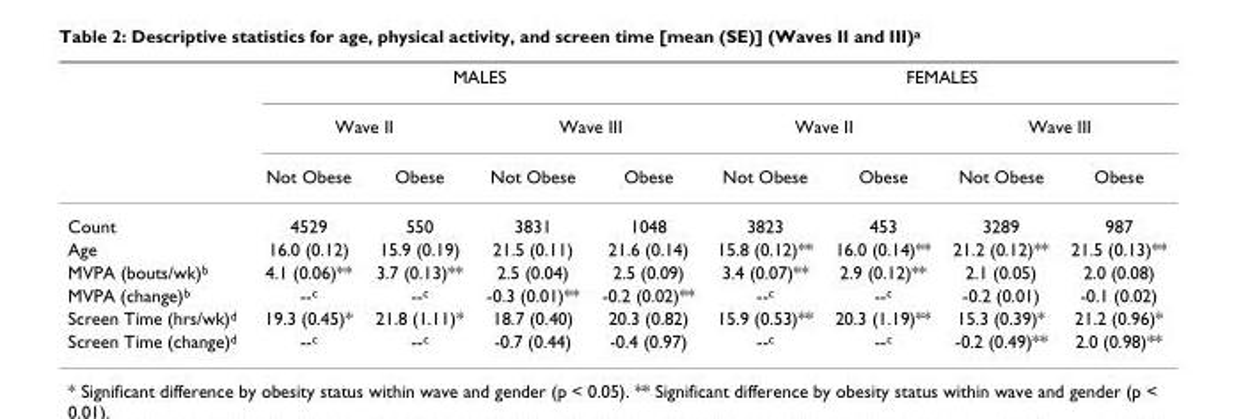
<table><thead><tr><td rowspan="3"></td><td colspan="4">MALES</td><td colspan="4">FEMALES</td></tr><tr><td colspan="2">Wave II</td><td colspan="2">Wave III</td><td colspan="2">Wave II</td><td colspan="2">Wave III</td></tr><tr><td>Not Obese</td><td>Obese</td><td>Not Obese</td><td>Obese</td><td>Not Obese</td><td>Obese</td><td>Not Obese</td><td>Obese</td></tr></thead><tbody><tr><td>Count</td><td>4529</td><td>550</td><td>3831</td><td>1048</td><td>3823</td><td>453</td><td>3289</td><td>987</td></tr><tr><td>Age</td><td>16.0 (0.12)</td><td>15.9 (0.19)</td><td>21.5 (0.11)</td><td>21.6 (0.14)</td><td>15.8 (0.12)**</td><td>16.0 (0.14)**</td><td>21.2 (0.12)**</td><td>21.5 (0.13)**</td></tr><tr><td>MVPA (bouts/wk)<sup>b</sup></td><td>4.1 (0.06)**</td><td>3.7 (0.13)**</td><td>2.5 (0.04)</td><td>2.5 (0.09)</td><td>3.4 (0.07)**</td><td>2.9 (0.12)**</td><td>2.1 (0.05)</td><td>2.0 (0.08)</td></tr><tr><td>MVPA (change)<sup>b</sup></td><td>--<sup>c</sup></td><td>--<sup>c</sup></td><td>-0.3 (0.01)**</td><td>-0.2 (0.02)**</td><td>--<sup>c</sup></td><td>--<sup>c</sup></td><td>-0.2 (0.01)</td><td>-0.1 (0.02)</td></tr><tr><td>Screen Time (hrs/wk)<sup>d</sup></td><td>19.3 (0.45)*</td><td>21.8 (1.11)*</td><td>18.7 (0.40)</td><td>20.3 (0.82)</td><td>15.9 (0.53)**</td><td>20.3 (1.19)**</td><td>15.3 (0.39)*</td><td>21.2 (0.96)*</td></tr><tr><td>Screen Time (change)<sup>d</sup></td><td>--<sup>c</sup></td><td>--<sup>c</sup></td><td>-0.7 (0.44)</td><td>-0.4 (0.97)</td><td>--<sup>c</sup></td><td>--<sup>c</sup></td><td>-0.2 (0.49)**</td><td>2.0 (0.98)**</td></tr></tbody></table>